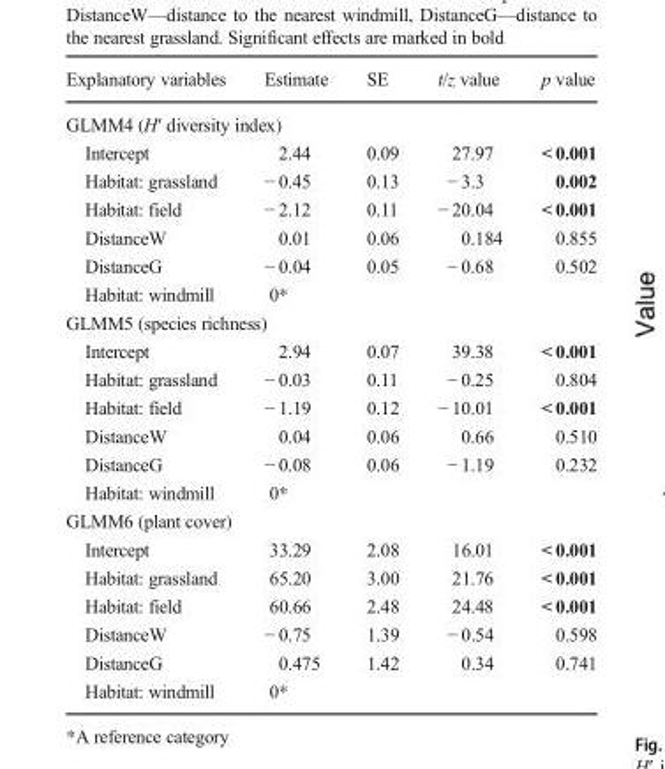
<table><thead><tr><td>Explanatory variables</td><td>Estimate</td><td>SE</td><td>t/z value</td><td>p value</td></tr></thead><tbody><tr><td colspan="5">GLMM4 (H′ diversity index)</td></tr><tr><td>Intercept</td><td>2.44</td><td>0.09</td><td>27.97</td><td>&lt; 0.001</td></tr><tr><td>Habitat: grassland</td><td>− 0.45</td><td>0.13</td><td>− 3.3</td><td>0.002</td></tr><tr><td>Habitat: field</td><td>− 2.12</td><td>0.11</td><td>− 20.04</td><td>&lt; 0.001</td></tr><tr><td>DistanceW</td><td>0.01</td><td>0.06</td><td>0.184</td><td>0.855</td></tr><tr><td>DistanceG</td><td>− 0.04</td><td>0.05</td><td>− 0.68</td><td>0.502</td></tr><tr><td>Habitat: windmill</td><td>0*</td><td></td><td></td><td></td></tr><tr><td colspan="5">GLMM5 (species richness)</td></tr><tr><td>Intercept</td><td>2.94</td><td>0.07</td><td>39.38</td><td>&lt; 0.001</td></tr><tr><td>Habitat: grassland</td><td>− 0.03</td><td>0.11</td><td>− 0.25</td><td>0.804</td></tr><tr><td>Habitat: field</td><td>− 1.19</td><td>0.12</td><td>− 10.01</td><td>&lt; 0.001</td></tr><tr><td>DistanceW</td><td>0.04</td><td>0.06</td><td>0.66</td><td>0.510</td></tr><tr><td>DistanceG</td><td>− 0.08</td><td>0.06</td><td>− 1.19</td><td>0.232</td></tr><tr><td>Habitat: windmill</td><td>0*</td><td></td><td></td><td></td></tr><tr><td colspan="5">GLMM6 (plant cover)</td></tr><tr><td>Intercept</td><td>33.29</td><td>2.08</td><td>16.01</td><td>&lt; 0.001</td></tr><tr><td>Habitat: grassland</td><td>65.20</td><td>3.00</td><td>21.76</td><td>&lt; 0.001</td></tr><tr><td>Habitat: field</td><td>60.66</td><td>2.48</td><td>24.48</td><td>&lt; 0.001</td></tr><tr><td>DistanceW</td><td>− 0.75</td><td>1.39</td><td>− 0.54</td><td>0.598</td></tr><tr><td>DistanceG</td><td>0.475</td><td>1.42</td><td>0.34</td><td>0.741</td></tr><tr><td>Habitat: windmill</td><td>0*</td><td></td><td></td><td></td></tr></tbody></table>